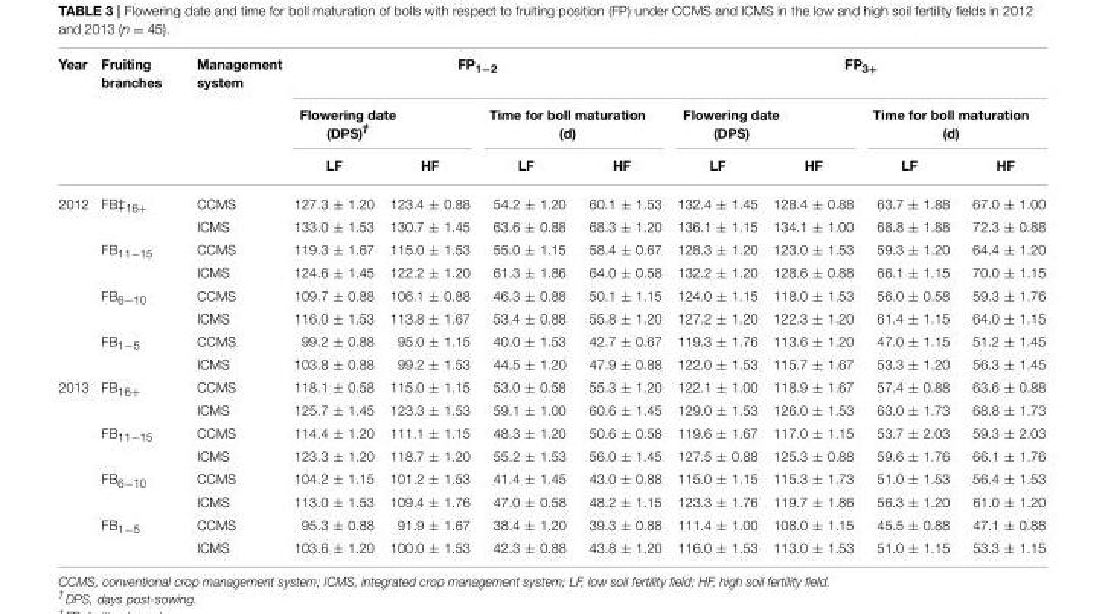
<table><thead><tr><td rowspan="3">Year</td><td rowspan="3">Fruiting branches</td><td rowspan="3">Management system</td><td colspan="4">FP<sub>1−2</sub></td><td colspan="4">FP<sub>3+</sub></td></tr><tr><td colspan="2">Flowering date (DPS)<sup>†</sup></td><td colspan="2">Time for boll maturation (d)</td><td colspan="2">Flowering date (DPS)</td><td colspan="2">Time for boll maturation (d)</td></tr><tr><td>LF</td><td>HF</td><td>LF</td><td>HF</td><td>LF</td><td>HF</td><td>LF</td><td>HF</td></tr></thead><tbody><tr><td rowspan="8">2012</td><td>FB‡<sub>16+</sub></td><td>CCMS</td><td>127.3 ± 1.20</td><td>123.4 ± 0.88</td><td>54.2 ± 1.20</td><td>60.1 ± 1.53</td><td>132.4 ± 1.45</td><td>128.4 ± 0.88</td><td>63.7 ± 1.88</td><td>67.0 ± 1.00</td></tr><tr><td></td><td>ICMS</td><td>133.0 ± 1.53</td><td>130.7 ± 1.45</td><td>63.6 ± 0.88</td><td>68.3 ± 1.20</td><td>136.1 ± 1.15</td><td>134.1 ± 1.00</td><td>68.8 ± 1.88</td><td>72.3 ± 0.88</td></tr><tr><td>FB<sub>11−15</sub></td><td>CCMS</td><td>119.3 ± 1.67</td><td>115.0 ± 1.53</td><td>55.0 ± 1.15</td><td>58.4 ± 0.67</td><td>128.3 ± 1.20</td><td>123.0 ± 1.53</td><td>59.3 ± 1.20</td><td>64.4 ± 1.20</td></tr><tr><td></td><td>ICMS</td><td>124.6 ± 1.45</td><td>122.2 ± 1.20</td><td>61.3 ± 1.86</td><td>64.0 ± 0.58</td><td>132.2 ± 1.20</td><td>128.6 ± 0.88</td><td>66.1 ± 1.15</td><td>70.0 ± 1.15</td></tr><tr><td>FB<sub>6−10</sub></td><td>CCMS</td><td>109.7 ± 0.88</td><td>106.1 ± 0.88</td><td>46.3 ± 0.88</td><td>50.1 ± 1.15</td><td>124.0 ± 1.15</td><td>118.0 ± 1.53</td><td>56.0 ± 0.58</td><td>59.3 ± 1.76</td></tr><tr><td></td><td>ICMS</td><td>116.0 ± 1.53</td><td>113.8 ± 1.67</td><td>53.4 ± 0.88</td><td>55.8 ± 1.20</td><td>127.2 ± 1.20</td><td>122.3 ± 1.20</td><td>61.4 ± 1.15</td><td>64.0 ± 1.15</td></tr><tr><td>FB<sub>1−5</sub></td><td>CCMS</td><td>99.2 ± 0.88</td><td>95.0 ± 1.15</td><td>40.0 ± 1.53</td><td>42.7 ± 0.67</td><td>119.3 ± 1.76</td><td>113.6 ± 1.20</td><td>47.0 ± 1.15</td><td>51.2 ± 1.45</td></tr><tr><td></td><td>ICMS</td><td>103.8 ± 0.88</td><td>99.2 ± 1.53</td><td>44.5 ± 1.20</td><td>47.9 ± 0.88</td><td>122.0 ± 1.53</td><td>115.7 ± 1.67</td><td>53.3 ± 1.20</td><td>56.3 ± 1.45</td></tr><tr><td rowspan="8">2013</td><td>FB<sub>16+</sub></td><td>CCMS</td><td>118.1 ± 0.58</td><td>115.0 ± 1.15</td><td>53.0 ± 0.58</td><td>55.3 ± 1.20</td><td>122.1 ± 1.00</td><td>118.9 ± 1.67</td><td>57.4 ± 0.88</td><td>63.6 ± 0.88</td></tr><tr><td></td><td>ICMS</td><td>125.7 ± 1.45</td><td>123.3 ± 1.53</td><td>59.1 ± 1.00</td><td>60.6 ± 1.45</td><td>129.0 ± 1.53</td><td>126.0 ± 1.53</td><td>63.0 ± 1.73</td><td>68.8 ± 1.73</td></tr><tr><td>FB<sub>11−15</sub></td><td>CCMS</td><td>114.4 ± 1.20</td><td>111.1 ± 1.15</td><td>48.3 ± 1.20</td><td>50.6 ± 0.58</td><td>119.6 ± 1.67</td><td>117.0 ± 1.15</td><td>53.7 ± 2.03</td><td>59.3 ± 2.03</td></tr><tr><td></td><td>ICMS</td><td>123.3 ± 1.20</td><td>118.7 ± 1.20</td><td>55.2 ± 1.53</td><td>56.0 ± 1.45</td><td>127.5 ± 0.88</td><td>125.3 ± 0.88</td><td>59.6 ± 1.76</td><td>66.1 ± 1.76</td></tr><tr><td>FB<sub>6−10</sub></td><td>CCMS</td><td>104.2 ± 1.15</td><td>101.2 ± 1.53</td><td>41.4 ± 1.45</td><td>43.0 ± 0.88</td><td>115.0 ± 1.15</td><td>115.3 ± 1.73</td><td>51.0 ± 1.53</td><td>56.4 ± 1.53</td></tr><tr><td></td><td>ICMS</td><td>113.0 ± 1.53</td><td>109.4 ± 1.76</td><td>47.0 ± 0.58</td><td>48.2 ± 1.15</td><td>123.3 ± 1.76</td><td>119.7 ± 1.86</td><td>56.3 ± 1.20</td><td>61.0 ± 1.20</td></tr><tr><td>FB<sub>1−5</sub></td><td>CCMS</td><td>95.3 ± 0.88</td><td>91.9 ± 1.67</td><td>38.4 ± 1.20</td><td>39.3 ± 0.88</td><td>111.4 ± 1.00</td><td>108.0 ± 1.15</td><td>45.5 ± 0.88</td><td>47.1 ± 0.88</td></tr><tr><td></td><td>ICMS</td><td>103.6 ± 1.20</td><td>100.0 ± 1.53</td><td>42.3 ± 0.88</td><td>43.8 ± 1.20</td><td>116.0 ± 1.53</td><td>113.0 ± 1.53</td><td>51.0 ± 1.15</td><td>53.3 ± 1.15</td></tr></tbody></table>